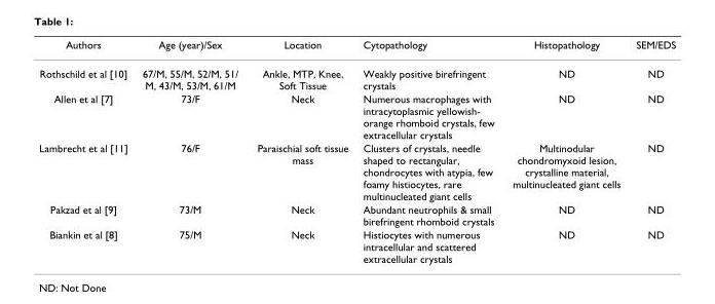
<table><thead><tr><td>Authors</td><td>Age (year)/Sex</td><td>Location</td><td>Cytopathology</td><td>Histopathology</td><td>SEM/EDS</td></tr></thead><tbody><tr><td>Rothschild et al [10]</td><td>67/M, 55/M, 52/M, 51/ M, 43/M, 53/M, 61/M</td><td>Ankle, MTP, Knee, Soft Tissue</td><td>Weakly positive birefringent crystals</td><td>ND</td><td>ND</td></tr><tr><td>Allen et al [7]</td><td>73/F</td><td>Neck</td><td>Numerous macrophages with intracytoplasmic yellowish- orange rhomboid crystals, few extracellular crystals</td><td>ND</td><td>ND</td></tr><tr><td>Lambrecht et al [11]</td><td>76/F</td><td>Paraischial soft tissue mass</td><td>Clusters of crystals, needle shaped to rectangular, chondrocytes with atypia, few foamy histiocytes, rare multinucleated giant cells</td><td>Multinodular chondromyxoid lesion, crystalline material, multinucleated giant cells</td><td>ND</td></tr><tr><td>Pakzad et al [9]</td><td>73/M</td><td>Neck</td><td>Abundant neutrophils &amp; small birefringent rhomboid crystals</td><td>ND</td><td>ND</td></tr><tr><td>Biankin et al [8]</td><td>75/M</td><td>Neck</td><td>Histiocytes with numerous intracellular and scattered extracellular crystals</td><td>ND</td><td>ND</td></tr></tbody></table>